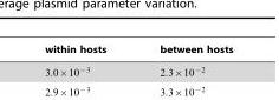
<table><thead><tr><td>within hosts</td><td>between hosts</td></tr></thead><tbody></tbody></table>